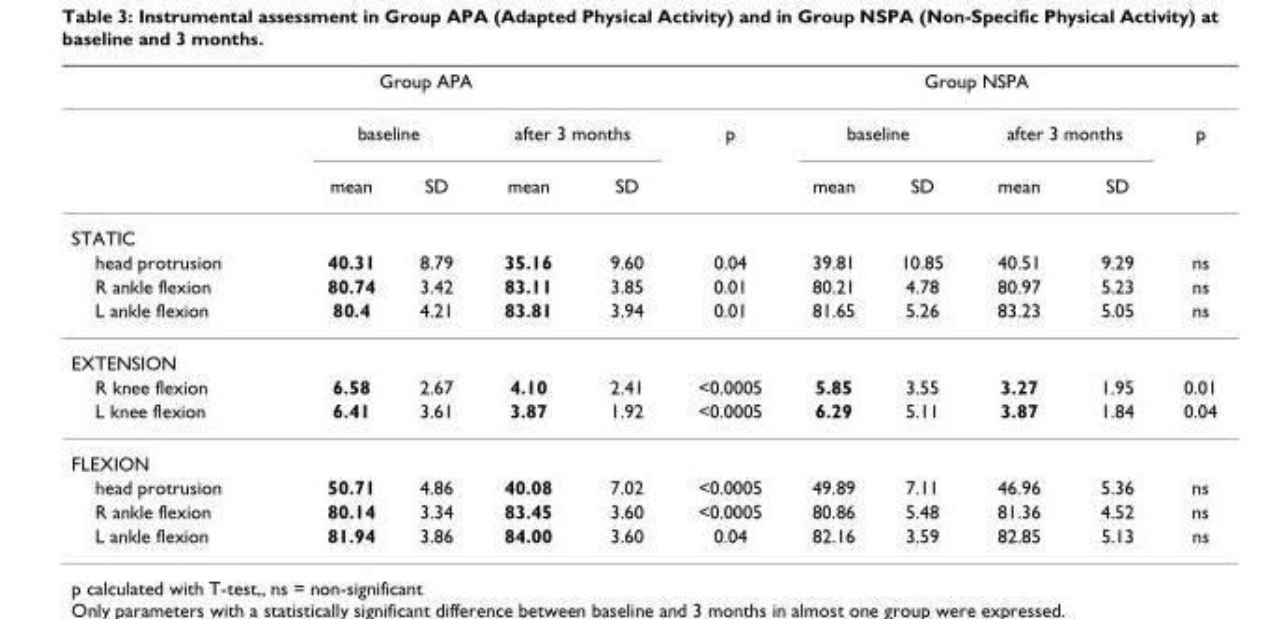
<table><thead><tr><td colspan="6">Group APA</td><td colspan="4">Group NSPA</td><td rowspan="3">p</td></tr><tr><td rowspan="2"></td><td colspan="2">baseline</td><td colspan="2">after 3 months</td><td rowspan="2">p</td><td colspan="2">baseline</td><td colspan="2">after 3 months</td></tr><tr><td>mean</td><td>SD</td><td>mean</td><td>SD</td><td>mean</td><td>SD</td><td>mean</td><td>SD</td></tr></thead><tbody><tr><td colspan="11">STATIC</td></tr><tr><td>head protrusion</td><td>40.31</td><td>8.79</td><td>35.16</td><td>9.60</td><td>0.04</td><td>39.81</td><td>10.85</td><td>40.51</td><td>9.29</td><td>ns</td></tr><tr><td>R ankle flexion</td><td>80.74</td><td>3.42</td><td>83.11</td><td>3.85</td><td>0.01</td><td>80.21</td><td>4.78</td><td>80.97</td><td>5.23</td><td>ns</td></tr><tr><td>L ankle flexion</td><td>80.4</td><td>4.21</td><td>83.81</td><td>3.94</td><td>0.01</td><td>81.65</td><td>5.26</td><td>83.23</td><td>5.05</td><td>ns</td></tr><tr><td colspan="11">EXTENSION</td></tr><tr><td>R knee flexion</td><td>6.58</td><td>2.67</td><td>4.10</td><td>2.41</td><td>&lt;0.0005</td><td>5.85</td><td>3.55</td><td>3.27</td><td>1.95</td><td>0.01</td></tr><tr><td>L knee flexion</td><td>6.41</td><td>3.61</td><td>3.87</td><td>1.92</td><td>&lt;0.0005</td><td>6.29</td><td>5.11</td><td>3.87</td><td>1.84</td><td>0.04</td></tr><tr><td colspan="11">FLEXION</td></tr><tr><td>head protrusion</td><td>50.71</td><td>4.86</td><td>40.08</td><td>7.02</td><td>&lt;0.0005</td><td>49.89</td><td>7.11</td><td>46.96</td><td>5.36</td><td>ns</td></tr><tr><td>R ankle flexion</td><td>80.14</td><td>3.34</td><td>83.45</td><td>3.60</td><td>&lt;0.0005</td><td>80.86</td><td>5.48</td><td>81.36</td><td>4.52</td><td>ns</td></tr><tr><td>L ankle flexion</td><td>81.94</td><td>3.86</td><td>84.00</td><td>3.60</td><td>0.04</td><td>82.16</td><td>3.59</td><td>82.85</td><td>5.13</td><td>ns</td></tr></tbody></table>